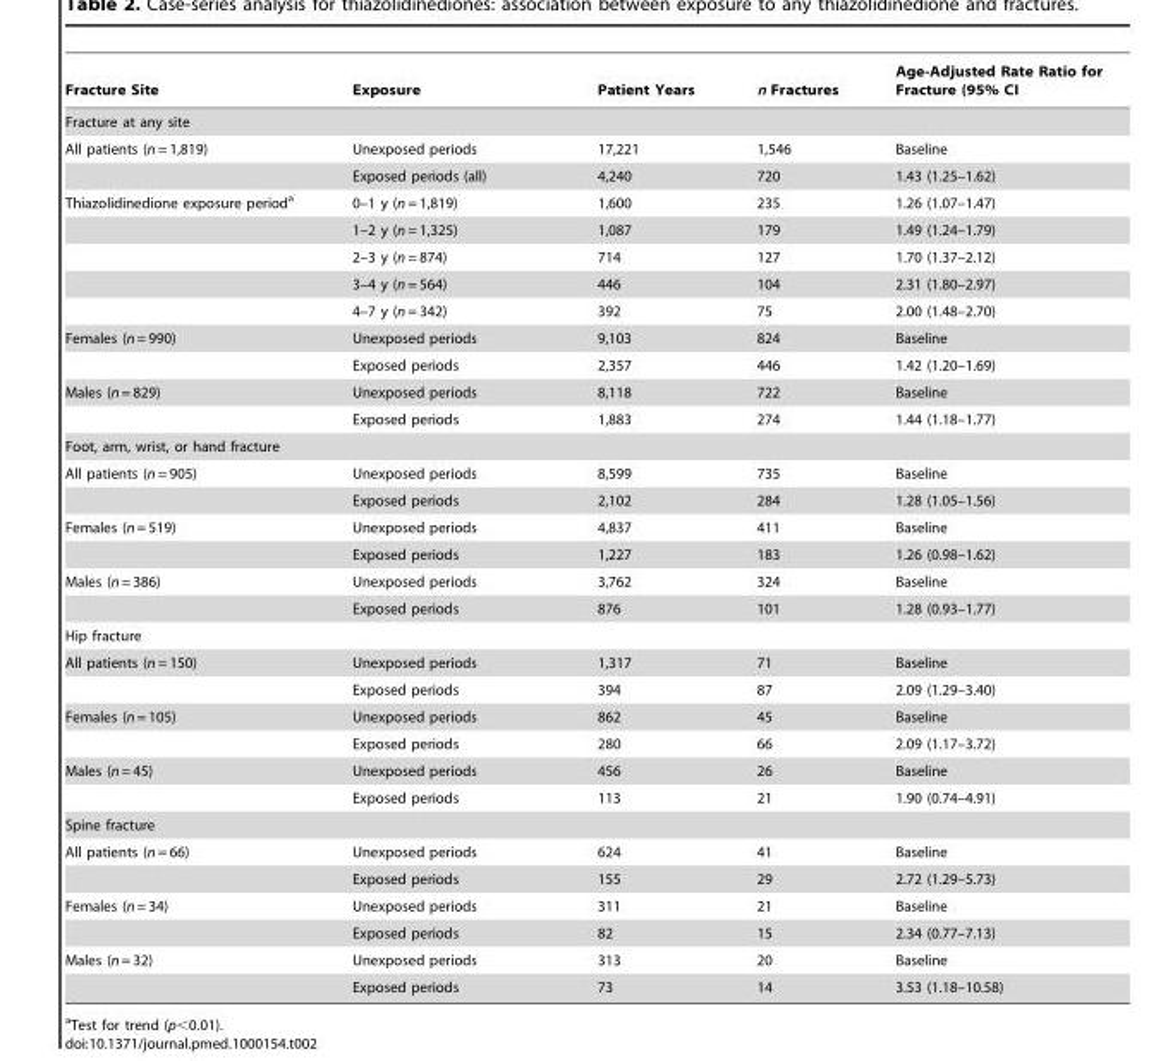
<table><thead><tr><td>Fracture Site</td><td>Exposure</td><td>Patient Years</td><td>n Fractures</td><td>Age-Adjusted Rate Ratio for Fracture (95% CI</td></tr></thead><tbody><tr><td colspan="5">Fracture at any site</td></tr><tr><td rowspan="2">All patients (n = 1,819)</td><td>Unexposed periods</td><td>17,221</td><td>1,546</td><td>Baseline</td></tr><tr><td>Exposed periods (all)</td><td>4,240</td><td>720</td><td>1.43 (1.25–1.62)</td></tr><tr><td rowspan="5">Thiazolidinedione exposure period<sup>a</sup></td><td>0–1 y (n = 1,819)</td><td>1,600</td><td>235</td><td>1.26 (1.07–1.47)</td></tr><tr><td>1–2 y (n = 1,325)</td><td>1,087</td><td>179</td><td>1.49 (1.24–1.79)</td></tr><tr><td>2–3 y (n = 874)</td><td>714</td><td>127</td><td>1.70 (1.37–2.12)</td></tr><tr><td>3–4 y (n = 564)</td><td>446</td><td>104</td><td>2.31 (1.80–2.97)</td></tr><tr><td>4–7 y (n = 342)</td><td>392</td><td>75</td><td>2.00 (1.48–2.70)</td></tr><tr><td rowspan="2">Females (n = 990)</td><td>Unexposed periods</td><td>9,103</td><td>824</td><td>Baseline</td></tr><tr><td>Exposed periods</td><td>2,357</td><td>446</td><td>1.42 (1.20–1.69)</td></tr><tr><td rowspan="2">Males (n = 829)</td><td>Unexposed periods</td><td>8,118</td><td>722</td><td>Baseline</td></tr><tr><td>Exposed periods</td><td>1,883</td><td>274</td><td>1.44 (1.18–1.77)</td></tr><tr><td colspan="5">Foot, arm, wrist, or hand fracture</td></tr><tr><td rowspan="2">All patients (n = 905)</td><td>Unexposed periods</td><td>8,599</td><td>735</td><td>Baseline</td></tr><tr><td>Exposed periods</td><td>2,102</td><td>284</td><td>1.28 (1.05–1.56)</td></tr><tr><td rowspan="2">Females (n = 519)</td><td>Unexposed periods</td><td>4,837</td><td>411</td><td>Baseline</td></tr><tr><td>Exposed periods</td><td>1,227</td><td>183</td><td>1.26 (0.98–1.62)</td></tr><tr><td rowspan="2">Males (n = 386)</td><td>Unexposed periods</td><td>3,762</td><td>324</td><td>Baseline</td></tr><tr><td>Exposed periods</td><td>876</td><td>101</td><td>1.28 (0.93–1.77)</td></tr><tr><td colspan="5">Hip fracture</td></tr><tr><td rowspan="2">All patients (n = 150)</td><td>Unexposed periods</td><td>1,317</td><td>71</td><td>Baseline</td></tr><tr><td>Exposed periods</td><td>394</td><td>87</td><td>2.09 (1.29–3.40)</td></tr><tr><td rowspan="2">Females (n = 105)</td><td>Unexposed periods</td><td>862</td><td>45</td><td>Baseline</td></tr><tr><td>Exposed periods</td><td>280</td><td>66</td><td>2.09 (1.17–3.72)</td></tr><tr><td rowspan="2">Males (n = 45)</td><td>Unexposed periods</td><td>456</td><td>26</td><td>Baseline</td></tr><tr><td>Exposed periods</td><td>113</td><td>21</td><td>1.90 (0.74–4.91)</td></tr><tr><td colspan="5">Spine fracture</td></tr><tr><td rowspan="2">All patients (n = 66)</td><td>Unexposed periods</td><td>624</td><td>41</td><td>Baseline</td></tr><tr><td>Exposed periods</td><td>155</td><td>29</td><td>2.72 (1.29–5.73)</td></tr><tr><td rowspan="2">Females (n = 34)</td><td>Unexposed periods</td><td>311</td><td>21</td><td>Baseline</td></tr><tr><td>Exposed periods</td><td>82</td><td>15</td><td>2.34 (0.77–7.13)</td></tr><tr><td rowspan="2">Males (n = 32)</td><td>Unexposed periods</td><td>313</td><td>20</td><td>Baseline</td></tr><tr><td>Exposed periods</td><td>73</td><td>14</td><td>3.53 (1.18–10.58)</td></tr></tbody></table>